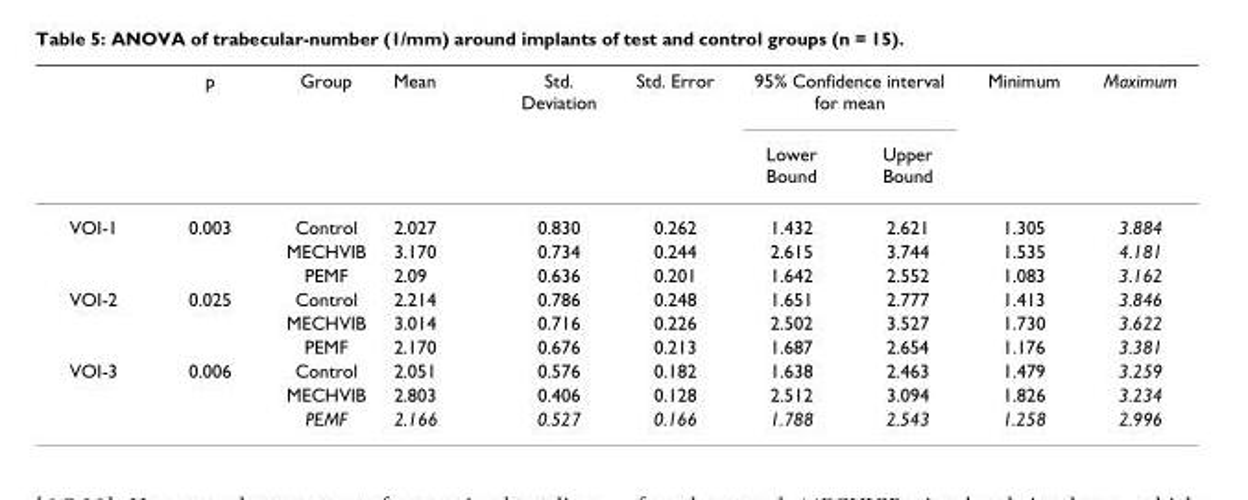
<table><thead><tr><td rowspan="2"></td><td rowspan="2">p</td><td rowspan="2">Group</td><td rowspan="2">Mean</td><td rowspan="2">Std. Deviation</td><td rowspan="2">Std. Error</td><td colspan="2">95% Confidence interval for mean</td><td rowspan="2">Minimum</td><td rowspan="2">Maximum</td></tr><tr><td>Lower Bound</td><td>Upper Bound</td></tr></thead><tbody><tr><td rowspan="3">VOI-1</td><td>0.003</td><td>Control</td><td>2.027</td><td>0.830</td><td>0.262</td><td>1.432</td><td>2.621</td><td>1.305</td><td>3.884</td></tr><tr><td></td><td>MECHVIB</td><td>3.170</td><td>0.734</td><td>0.244</td><td>2.615</td><td>3.744</td><td>1.535</td><td>4.181</td></tr><tr><td></td><td>PEMF</td><td>2.09</td><td>0.636</td><td>0.201</td><td>1.642</td><td>2.552</td><td>1.083</td><td>3.162</td></tr><tr><td rowspan="3">VOI-2</td><td>0.025</td><td>Control</td><td>2.214</td><td>0.786</td><td>0.248</td><td>1.651</td><td>2.777</td><td>1.413</td><td>3.846</td></tr><tr><td></td><td>MECHVIB</td><td>3.014</td><td>0.716</td><td>0.226</td><td>2.502</td><td>3.527</td><td>1.730</td><td>3.622</td></tr><tr><td></td><td>PEMF</td><td>2.170</td><td>0.676</td><td>0.213</td><td>1.687</td><td>2.654</td><td>1.176</td><td>3.381</td></tr><tr><td rowspan="3">VOI-3</td><td>0.006</td><td>Control</td><td>2.051</td><td>0.576</td><td>0.182</td><td>1.638</td><td>2.463</td><td>1.479</td><td>3.259</td></tr><tr><td></td><td>MECHVIB</td><td>2.803</td><td>0.406</td><td>0.128</td><td>2.512</td><td>3.094</td><td>1.826</td><td>3.234</td></tr><tr><td></td><td>PEMF</td><td>2.166</td><td>0.527</td><td>0.166</td><td>1.788</td><td>2.543</td><td>1.258</td><td>2.996</td></tr></tbody></table>